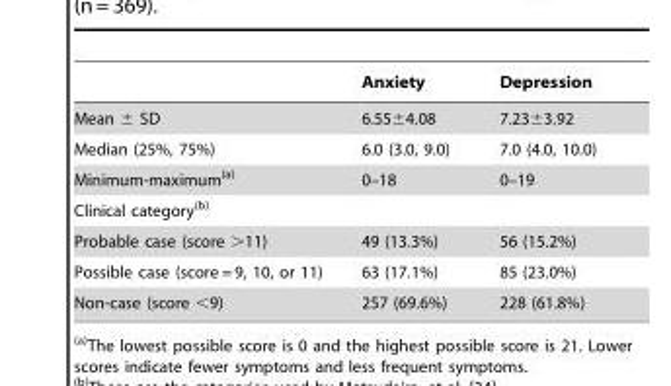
<table><thead><tr><td></td><td>Anxiety</td><td>Depression</td></tr></thead><tbody><tr><td>Mean ± SD</td><td>6.55±4.08</td><td>7.23±3.92</td></tr><tr><td>Median (25%, 75%)</td><td>6.0 (3.0, 9.0)</td><td>7.0 (4.0, 10.0)</td></tr><tr><td>Minimum-maximum(a)</td><td>0–18</td><td>0–19</td></tr><tr><td colspan="3">Clinical category(b)</td></tr><tr><td>Probable case (score &gt;11)</td><td>49 (13.3%)</td><td>56 (15.2%)</td></tr><tr><td>Possible case (score = 9, 10, or 11)</td><td>63 (17.1%)</td><td>85 (23.0%)</td></tr><tr><td>Non-case (score &lt;9)</td><td>257 (69.6%)</td><td>228 (61.8%)</td></tr></tbody></table>